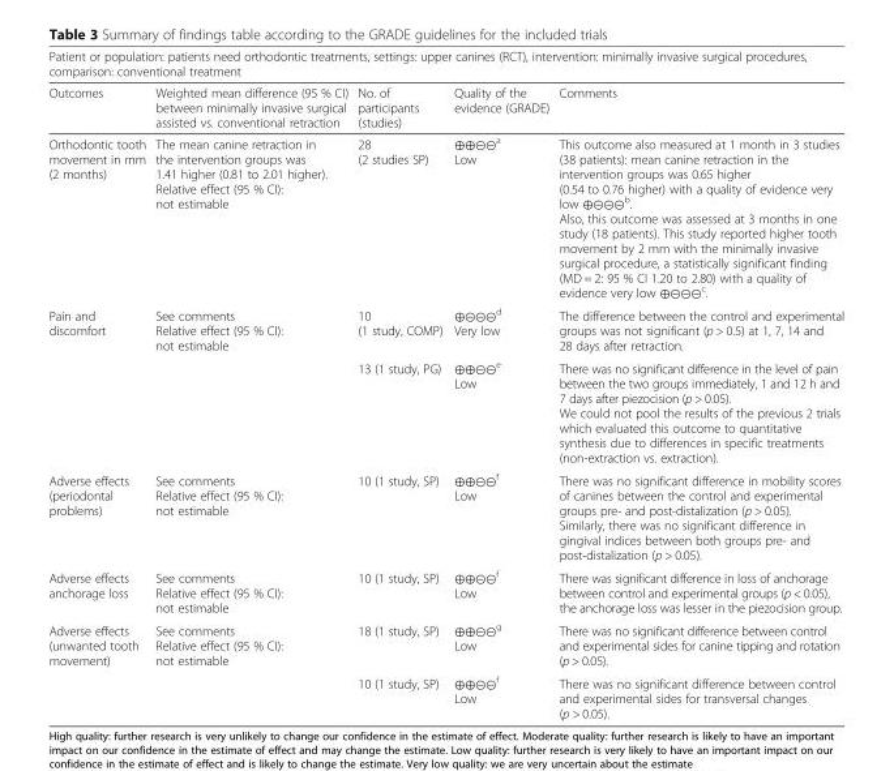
<table><thead><tr><td colspan="5">Patient or population: patients need orthodontic treatments, settings: upper canines (RCT), intervention: minimally invasive surgical procedures, comparison: conventional treatment</td></tr><tr><td>Outcomes</td><td>Weighted mean difference (95 % CI) between minimally invasive surgical assisted vs. conventional retraction</td><td>No. of participants (studies)</td><td>Quality of the evidence (GRADE)</td><td>Comments</td></tr></thead><tbody><tr><td>Orthodontic tooth movement in mm (2 months)</td><td>The mean canine retraction in the intervention groups was 1.41 higher (0.81 to 2.01 higher). Relative effect (95 % CI): not estimable</td><td>28 (2 studies SP)</td><td>⊕⊕⊝⊝<sup>a</sup> Low</td><td>This outcome also measured at 1 month in 3 studies (38 patients): mean canine retraction in the intervention groups was 0.65 higher (0.54 to 0.76 higher) with a quality of evidence very low ⊕⊝⊝⊝<sup>b</sup>. Also, this outcome was assessed at 3 months in one study (18 patients). This study reported higher tooth movement by 2 mm with the minimally invasive surgical procedure, a statistically significant finding (MD = 2: 95 % CI 1.20 to 2.80) with a quality of evidence very low ⊕⊝⊝⊝<sup>c</sup>.</td></tr><tr><td rowspan="2">Pain and discomfort</td><td rowspan="2">See comments Relative effect (95 % CI): not estimable</td><td>10 (1 study, COMP)</td><td>⊕⊝⊝⊝<sup>d</sup> Very low</td><td>The difference between the control and experimental groups was not significant (p &gt; 0.5) at 1, 7, 14 and 28 days after retraction.</td></tr><tr><td>13 (1 study, PG)</td><td>⊕⊕⊝⊝<sup>e</sup> Low</td><td>There was no significant difference in the level of pain between the two groups immediately, 1 and 12 h and 7 days after piezocision (p &gt; 0.05). We could not pool the results of the previous 2 trials which evaluated this outcome to quantitative synthesis due to differences in specific treatments (non-extraction vs. extraction).</td></tr><tr><td>Adverse effects (periodontal problems)</td><td>See comments Relative effect (95 % CI): not estimable</td><td>10 (1 study, SP)</td><td>⊕⊕⊝⊝<sup>f</sup> Low</td><td>There was no significant difference in mobility scores of canines between the control and experimental groups pre- and post-distalization (p &gt; 0.05). Similarly, there was no significant difference in gingival indices between both groups pre- and post-distalization (p &gt; 0.05).</td></tr><tr><td>Adverse effects anchorage loss</td><td>See comments Relative effect (95 % CI): not estimable</td><td>10 (1 study, SP)</td><td>⊕⊕⊝⊝<sup>f</sup> Low</td><td>There was significant difference in loss of anchorage between control and experimental groups (p &lt; 0.05), the anchorage loss was lesser in the piezocision group.</td></tr><tr><td rowspan="2">Adverse effects (unwanted tooth movement)</td><td rowspan="2">See comments Relative effect (95 % CI): not estimable</td><td>18 (1 study, SP)</td><td>⊕⊕⊝⊝<sup>g</sup> Low</td><td>There was no significant difference between control and experimental sides for canine tipping and rotation (p &gt; 0.05).</td></tr><tr><td>10 (1 study, SP)</td><td>⊕⊕⊝⊝<sup>f</sup> Low</td><td>There was no significant difference between control and experimental sides for transversal changes (p &gt; 0.05).</td></tr></tbody></table>